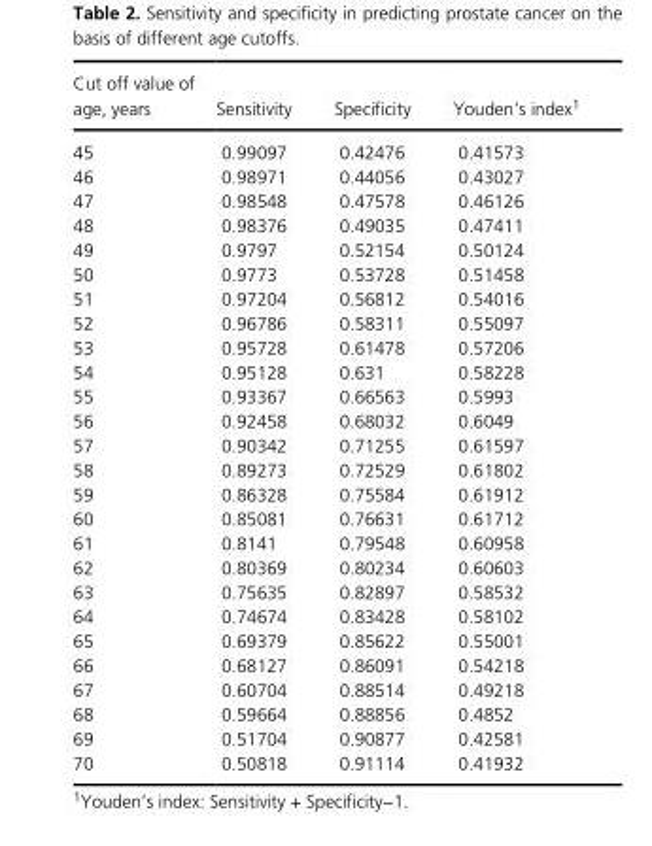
<table><thead><tr><td>Cut off value of age, years</td><td>Sensitivity</td><td>Specificity</td><td>Youden’s index1</td></tr></thead><tbody><tr><td>45</td><td>0.99097</td><td>0.42476</td><td>0.41573</td></tr><tr><td>46</td><td>0.98971</td><td>0.44056</td><td>0.43027</td></tr><tr><td>47</td><td>0.98548</td><td>0.47578</td><td>0.46126</td></tr><tr><td>48</td><td>0.98376</td><td>0.49035</td><td>0.47411</td></tr><tr><td>49</td><td>0.9797</td><td>0.52154</td><td>0.50124</td></tr><tr><td>50</td><td>0.9773</td><td>0.53728</td><td>0.51458</td></tr><tr><td>51</td><td>0.97204</td><td>0.56812</td><td>0.54016</td></tr><tr><td>52</td><td>0.96786</td><td>0.58311</td><td>0.55097</td></tr><tr><td>53</td><td>0.95728</td><td>0.61478</td><td>0.57206</td></tr><tr><td>54</td><td>0.95128</td><td>0.631</td><td>0.58228</td></tr><tr><td>55</td><td>0.93367</td><td>0.66563</td><td>0.5993</td></tr><tr><td>56</td><td>0.92458</td><td>0.68032</td><td>0.6049</td></tr><tr><td>57</td><td>0.90342</td><td>0.71255</td><td>0.61597</td></tr><tr><td>58</td><td>0.89273</td><td>0.72529</td><td>0.61802</td></tr><tr><td>59</td><td>0.86328</td><td>0.75584</td><td>0.61912</td></tr><tr><td>60</td><td>0.85081</td><td>0.76631</td><td>0.61712</td></tr><tr><td>61</td><td>0.8141</td><td>0.79548</td><td>0.60958</td></tr><tr><td>62</td><td>0.80369</td><td>0.80234</td><td>0.60603</td></tr><tr><td>63</td><td>0.75635</td><td>0.82897</td><td>0.58532</td></tr><tr><td>64</td><td>0.74674</td><td>0.83428</td><td>0.58102</td></tr><tr><td>65</td><td>0.69379</td><td>0.85622</td><td>0.55001</td></tr><tr><td>66</td><td>0.68127</td><td>0.86091</td><td>0.54218</td></tr><tr><td>67</td><td>0.60704</td><td>0.88514</td><td>0.49218</td></tr><tr><td>68</td><td>0.59664</td><td>0.88856</td><td>0.4852</td></tr><tr><td>69</td><td>0.51704</td><td>0.90877</td><td>0.42581</td></tr><tr><td>70</td><td>0.50818</td><td>0.91114</td><td>0.41932</td></tr></tbody></table>